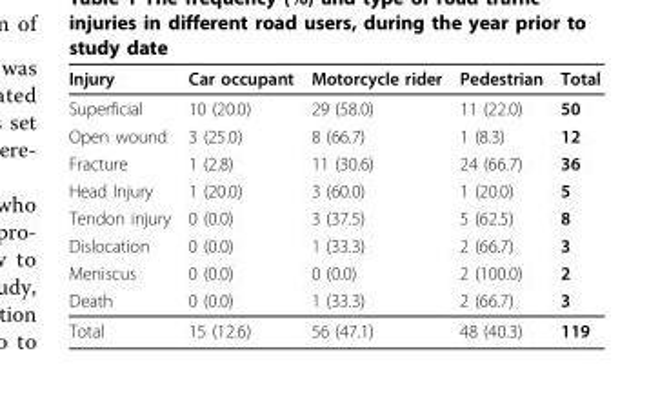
<table><thead><tr><td>Injury</td><td>Car occupant</td><td>Motorcycle rider</td><td>Pedestrian</td><td>Total</td></tr></thead><tbody><tr><td>Superficial</td><td>10 (20.0)</td><td>29 (58.0)</td><td>11 (22.0)</td><td>50</td></tr><tr><td>Open wound</td><td>3 (25.0)</td><td>8 (66.7)</td><td>1 (8.3)</td><td>12</td></tr><tr><td>Fracture</td><td>1 (2.8)</td><td>11 (30.6)</td><td>24 (66.7)</td><td>36</td></tr><tr><td>Head Injury</td><td>1 (20.0)</td><td>3 (60.0)</td><td>1 (20.0)</td><td>5</td></tr><tr><td>Tendon injury</td><td>0 (0.0)</td><td>3 (37.5)</td><td>5 (62.5)</td><td>8</td></tr><tr><td>Dislocation</td><td>0 (0.0)</td><td>1 (33.3)</td><td>2 (66.7)</td><td>3</td></tr><tr><td>Meniscus</td><td>0 (0.0)</td><td>0 (0.0)</td><td>2 (100.0)</td><td>2</td></tr><tr><td>Death</td><td>0 (0.0)</td><td>1 (33.3)</td><td>2 (66.7)</td><td>3</td></tr><tr><td>Total</td><td>15 (12.6)</td><td>56 (47.1)</td><td>48 (40.3)</td><td>119</td></tr></tbody></table>